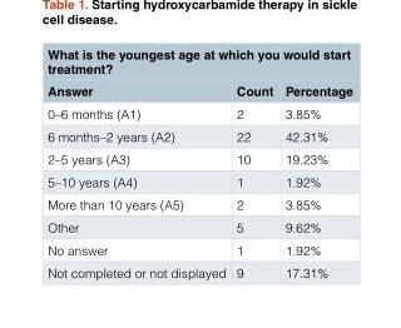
<table><thead><tr><td colspan="3">What is the youngest age at which you would start treatment?</td></tr><tr><td>Answer</td><td>Count</td><td>Percentage</td></tr></thead><tbody><tr><td>0–6 months (A1)</td><td>2</td><td>3.85%</td></tr><tr><td>6 months–2 years (A2)</td><td>22</td><td>42.31%</td></tr><tr><td>2–5 years (A3)</td><td>10</td><td>19.23%</td></tr><tr><td>5–10 years (A4)</td><td>1</td><td>1.92%</td></tr><tr><td>More than 10 years (A5)</td><td>2</td><td>3.85%</td></tr><tr><td>Other</td><td>5</td><td>9.62%</td></tr><tr><td>No answer</td><td>1</td><td>1.92%</td></tr><tr><td>Not completed or not displayed</td><td>9</td><td>17.31%</td></tr></tbody></table>